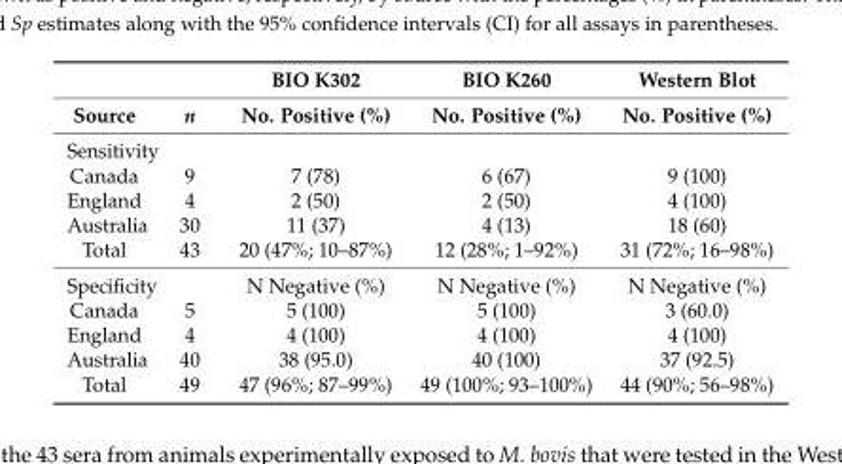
<table><thead><tr><td rowspan="2">Source</td><td rowspan="2">n</td><td rowspan="2">BIO K302 No. Positive (%)</td><td rowspan="2">BIO K260 No. Positive (%)</td><td rowspan="2">Western Blot No. Positive (%)</td></tr><tr></tr></thead><tbody><tr><td colspan="5">Sensitivity</td></tr><tr><td>Canada</td><td>9</td><td>7 (78)</td><td>6 (67)</td><td>9 (100)</td></tr><tr><td>England</td><td>4</td><td>2 (50)</td><td>2 (50)</td><td>4 (100)</td></tr><tr><td>Australia</td><td>30</td><td>11 (37)</td><td>4 (13)</td><td>18 (60)</td></tr><tr><td>Total</td><td>43</td><td>20 (47%; 10–87%)</td><td>12 (28%; 1–92%)</td><td>31 (72%; 16–98%)</td></tr><tr><td>Specificity</td><td></td><td>N Negative (%)</td><td>N Negative (%)</td><td>N Negative (%)</td></tr><tr><td>Canada</td><td>5</td><td>5 (100)</td><td>5 (100)</td><td>3 (60.0)</td></tr><tr><td>England</td><td>4</td><td>4 (100)</td><td>4 (100)</td><td>4 (100)</td></tr><tr><td>Australia</td><td>40</td><td>38 (95.0)</td><td>40 (100)</td><td>37 (92.5)</td></tr><tr><td>Total</td><td>49</td><td>47 (96%; 87–99%)</td><td>49 (100%; 93–100%)</td><td>44 (90%; 56–98%)</td></tr></tbody></table>